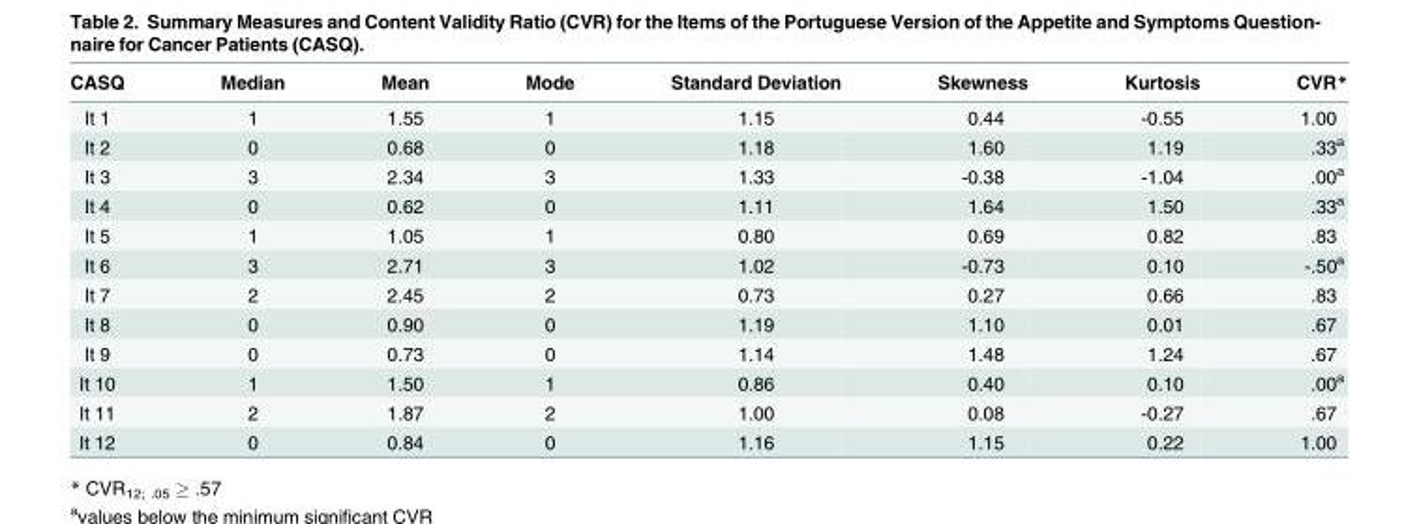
<table><thead><tr><td>CASQ</td><td>Median</td><td>Mean</td><td>Mode</td><td>Standard Deviation</td><td>Skewness</td><td>Kurtosis</td><td>CVR*</td></tr></thead><tbody><tr><td>It 1</td><td>1</td><td>1.55</td><td>1</td><td>1.15</td><td>0.44</td><td>-0.55</td><td>1.00</td></tr><tr><td>It 2</td><td>0</td><td>0.68</td><td>0</td><td>1.18</td><td>1.60</td><td>1.19</td><td>.33<sup>a</sup></td></tr><tr><td>It 3</td><td>3</td><td>2.34</td><td>3</td><td>1.33</td><td>-0.38</td><td>-1.04</td><td>.00<sup>a</sup></td></tr><tr><td>It 4</td><td>0</td><td>0.62</td><td>0</td><td>1.11</td><td>1.64</td><td>1.50</td><td>.33<sup>a</sup></td></tr><tr><td>It 5</td><td>1</td><td>1.05</td><td>1</td><td>0.80</td><td>0.69</td><td>0.82</td><td>.83</td></tr><tr><td>It 6</td><td>3</td><td>2.71</td><td>3</td><td>1.02</td><td>-0.73</td><td>0.10</td><td>-.50<sup>a</sup></td></tr><tr><td>It 7</td><td>2</td><td>2.45</td><td>2</td><td>0.73</td><td>0.27</td><td>0.66</td><td>.83</td></tr><tr><td>It 8</td><td>0</td><td>0.90</td><td>0</td><td>1.19</td><td>1.10</td><td>0.01</td><td>.67</td></tr><tr><td>It 9</td><td>0</td><td>0.73</td><td>0</td><td>1.14</td><td>1.48</td><td>1.24</td><td>.67</td></tr><tr><td>It 10</td><td>1</td><td>1.50</td><td>1</td><td>0.86</td><td>0.40</td><td>0.10</td><td>.00<sup>a</sup></td></tr><tr><td>It 11</td><td>2</td><td>1.87</td><td>2</td><td>1.00</td><td>0.08</td><td>-0.27</td><td>.67</td></tr><tr><td>It 12</td><td>0</td><td>0.84</td><td>0</td><td>1.16</td><td>1.15</td><td>0.22</td><td>1.00</td></tr></tbody></table>